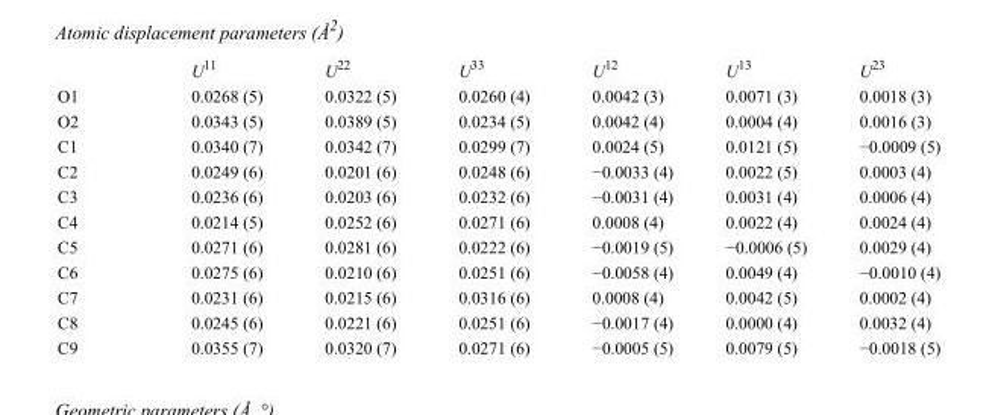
<table><thead><tr><td></td><td>U<sup>11</sup></td><td>U<sup>22</sup></td><td>U<sup>33</sup></td><td>U<sup>12</sup></td><td>U<sup>13</sup></td><td>U<sup>23</sup></td></tr></thead><tbody><tr><td>O1</td><td>0.0268 (5)</td><td>0.0322 (5)</td><td>0.0260 (4)</td><td>0.0042 (3)</td><td>0.0071 (3)</td><td>0.0018 (3)</td></tr><tr><td>O2</td><td>0.0343 (5)</td><td>0.0389 (5)</td><td>0.0234 (5)</td><td>0.0042 (4)</td><td>0.0004 (4)</td><td>0.0016 (3)</td></tr><tr><td>C1</td><td>0.0340 (7)</td><td>0.0342 (7)</td><td>0.0299 (7)</td><td>0.0024 (5)</td><td>0.0121 (5)</td><td>−0.0009 (5)</td></tr><tr><td>C2</td><td>0.0249 (6)</td><td>0.0201 (6)</td><td>0.0248 (6)</td><td>−0.0033 (4)</td><td>0.0022 (5)</td><td>0.0003 (4)</td></tr><tr><td>C3</td><td>0.0236 (6)</td><td>0.0203 (6)</td><td>0.0232 (6)</td><td>−0.0031 (4)</td><td>0.0031 (4)</td><td>0.0006 (4)</td></tr><tr><td>C4</td><td>0.0214 (5)</td><td>0.0252 (6)</td><td>0.0271 (6)</td><td>0.0008 (4)</td><td>0.0022 (4)</td><td>0.0024 (4)</td></tr><tr><td>C5</td><td>0.0271 (6)</td><td>0.0281 (6)</td><td>0.0222 (6)</td><td>−0.0019 (5)</td><td>−0.0006 (5)</td><td>0.0029 (4)</td></tr><tr><td>C6</td><td>0.0275 (6)</td><td>0.0210 (6)</td><td>0.0251 (6)</td><td>−0.0058 (4)</td><td>0.0049 (4)</td><td>−0.0010 (4)</td></tr><tr><td>C7</td><td>0.0231 (6)</td><td>0.0215 (6)</td><td>0.0316 (6)</td><td>0.0008 (4)</td><td>0.0042 (5)</td><td>0.0002 (4)</td></tr><tr><td>C8</td><td>0.0245 (6)</td><td>0.0221 (6)</td><td>0.0251 (6)</td><td>−0.0017 (4)</td><td>0.0000 (4)</td><td>0.0032 (4)</td></tr><tr><td>C9</td><td>0.0355 (7)</td><td>0.0320 (7)</td><td>0.0271 (6)</td><td>−0.0005 (5)</td><td>0.0079 (5)</td><td>−0.0018 (5)</td></tr></tbody></table>